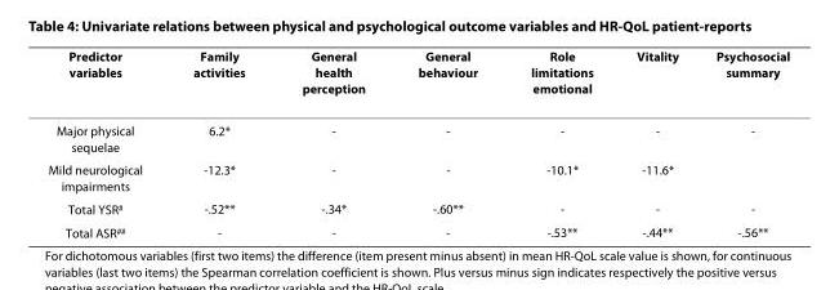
<table><thead><tr><td>Predictor variables</td><td>Family activities</td><td>General health perception</td><td>General behaviour</td><td>Role limitations emotional</td><td>Vitality</td><td>Psychosocial summary</td></tr></thead><tbody><tr><td>Major physical sequelae</td><td>6.2*</td><td>-</td><td>-</td><td>-</td><td>-</td><td>-</td></tr><tr><td>Mild neurological impairments</td><td>-12.3*</td><td>-</td><td>-</td><td>-10.1*</td><td>-11.6*</td><td></td></tr><tr><td>Total YSR<sup>#</sup></td><td>-.52**</td><td>-.34*</td><td>-.60**</td><td>-</td><td>-</td><td>-</td></tr><tr><td>Total ASR<sup>##</sup></td><td>-</td><td>-</td><td>-</td><td>-.53**</td><td>-.44**</td><td>-.56**</td></tr></tbody></table>